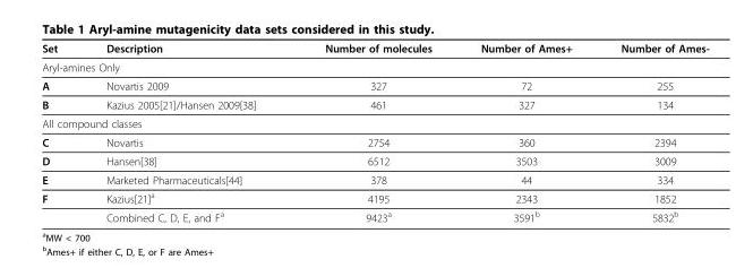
<table><thead><tr><td>Set</td><td>Description</td><td>Number of molecules</td><td>Number of Ames+</td><td>Number of Ames-</td></tr></thead><tbody><tr><td colspan="5">Aryl-amines Only</td></tr><tr><td>A</td><td>Novartis 2009</td><td>327</td><td>72</td><td>255</td></tr><tr><td>B</td><td>Kazius 2005[21]/Hansen 2009[38]</td><td>461</td><td>327</td><td>134</td></tr><tr><td colspan="5">All compound classes</td></tr><tr><td>C</td><td>Novartis</td><td>2754</td><td>360</td><td>2394</td></tr><tr><td>D</td><td>Hansen[38]</td><td>6512</td><td>3503</td><td>3009</td></tr><tr><td>E</td><td>Marketed Pharmaceuticals[44]</td><td>378</td><td>44</td><td>334</td></tr><tr><td rowspan="2">F</td><td>Kazius[21]<sup>a</sup></td><td>4195</td><td>2343</td><td>1852</td></tr><tr><td>Combined C, D, E, and F<sup>a</sup></td><td>9423<sup>a</sup></td><td>3591<sup>b</sup></td><td>5832<sup>b</sup></td></tr></tbody></table>